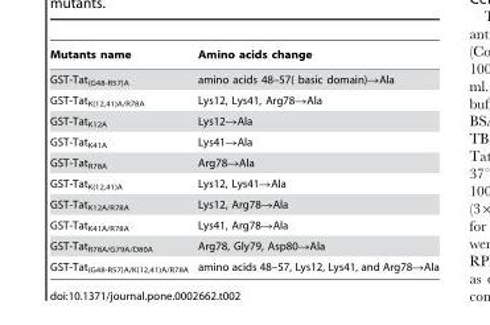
<table><thead><tr><td>Mutants name</td><td>Amino acids change</td></tr></thead><tbody><tr><td>GST-Tat<sub>(G48-R57)A</sub></td><td>amino acids 48–57( basic domain)→Ala</td></tr><tr><td>GST-Tat<sub>K(12,41)A/R78A</sub></td><td>Lys12, Lys41, Arg78→Ala</td></tr><tr><td>GST-Tat<sub>K12A</sub></td><td>Lys12→Ala</td></tr><tr><td>GST-Tat<sub>K41A</sub></td><td>Lys41→Ala</td></tr><tr><td>GST-Tat<sub>R78A</sub></td><td>Arg78→Ala</td></tr><tr><td>GST-Tat<sub>K(12,41)A</sub></td><td>Lys12, Lys41→Ala</td></tr><tr><td>GST-Tat<sub>K12A/R78A</sub></td><td>Lys12, Arg78→Ala</td></tr><tr><td>GST-Tat<sub>K41A/R78A</sub></td><td>Lys41, Arg78→Ala</td></tr><tr><td>GST-Tat<sub>R78A/G79A/D80A</sub></td><td>Arg78, Gly79, Asp80→Ala</td></tr><tr><td>GST-Tat<sub>(G48-R57)A/K(12,41)A/R78A</sub></td><td>amino acids 48–57, Lys12, Lys41, and Arg78→Ala</td></tr></tbody></table>